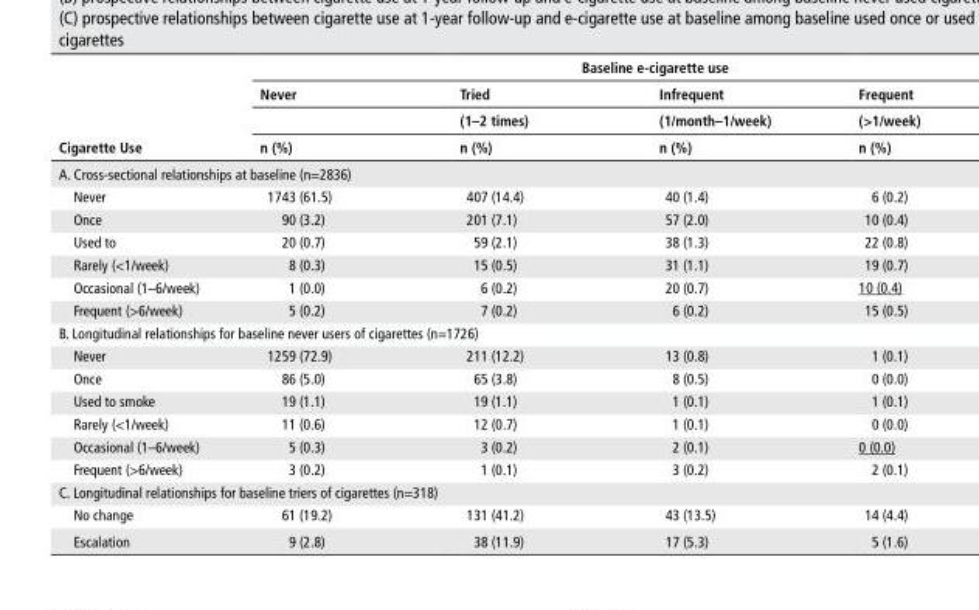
<table><thead><tr><td rowspan="4">Cigarette use</td><td colspan="4">baseline e-cigarette use</td></tr><tr><td rowspan="3">never n (%)</td><td rowspan="3">Tried (1–2 times) n (%)</td><td rowspan="3">Infrequent (1/month–1/week) n (%)</td><td rowspan="3">Frequent (&gt;1/week) n (%)</td></tr><tr></tr><tr></tr></thead><tbody><tr><td colspan="5">A. Cross-sectional relationships at baseline (n=2836)</td></tr><tr><td>Never</td><td>1743 (61.5)</td><td>407 (14.4)</td><td>40 (1.4)</td><td>6 (0.2)</td></tr><tr><td>Once</td><td>90 (3.2)</td><td>201 (7.1)</td><td>57 (2.0)</td><td>10 (0.4)</td></tr><tr><td>Used to</td><td>20 (0.7)</td><td>59 (2.1)</td><td>38 (1.3)</td><td>22 (0.8)</td></tr><tr><td>Rarely (&lt;1/week)</td><td>8 (0.3)</td><td>15 (0.5)</td><td>31 (1.1)</td><td>19 (0.7)</td></tr><tr><td>Occasional (1–6/week)</td><td>1 (0.0)</td><td>6 (0.2)</td><td>20 (0.7)</td><td>10 (0.4)</td></tr><tr><td>Frequent (&gt;6/week)</td><td>5 (0.2)</td><td>7 (0.2)</td><td>6 (0.2)</td><td>15 (0.5)</td></tr><tr><td colspan="5">B. Longitudinal relationships for baseline never users of cigarettes (n=1726)</td></tr><tr><td>Never</td><td>1259 (72.9)</td><td>211 (12.2)</td><td>13 (0.8)</td><td>1 (0.1)</td></tr><tr><td>Once</td><td>86 (5.0)</td><td>65 (3.8)</td><td>8 (0.5)</td><td>0 (0.0)</td></tr><tr><td>Used to smoke</td><td>19 (1.1)</td><td>19 (1.1)</td><td>1 (0.1)</td><td>1 (0.1)</td></tr><tr><td>Rarely (&lt;1/week)</td><td>11 (0.6)</td><td>12 (0.7)</td><td>1 (0.1)</td><td>0 (0.0)</td></tr><tr><td>Occasional (1–6/week)</td><td>5 (0.3)</td><td>3 (0.2)</td><td>2 (0.1)</td><td>0 (0.0)</td></tr><tr><td>Frequent (&gt;6/week)</td><td>3 (0.2)</td><td>1 (0.1)</td><td>3 (0.2)</td><td>2 (0.1)</td></tr><tr><td colspan="5">C. Longitudinal relationships for baseline triers of cigarettes (n=318)</td></tr><tr><td>No change</td><td>61 (19.2)</td><td>131 (41.2)</td><td>43 (13.5)</td><td>14 (4.4)</td></tr><tr><td>Escalation</td><td>9 (2.8)</td><td>38 (11.9)</td><td>17 (5.3)</td><td>5 (1.6)</td></tr></tbody></table>